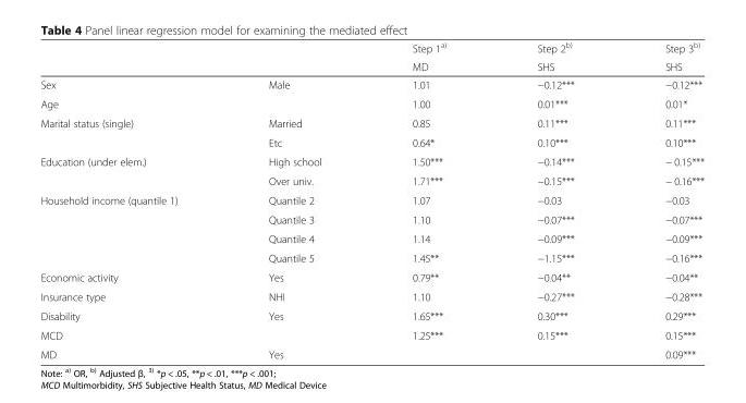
<table><thead><tr><td rowspan="2"></td><td rowspan="2"></td><td rowspan="2">Step 1<sup>a)</sup> MD</td><td rowspan="2">Step 2<sup>b)</sup> SHS</td><td rowspan="2">Step 3<sup>b)</sup> SHS</td></tr><tr></tr></thead><tbody><tr><td>Sex</td><td>Male</td><td>1.01</td><td>−0.12***</td><td>−0.12***</td></tr><tr><td>Age</td><td></td><td>1.00</td><td>0.01***</td><td>0.01*</td></tr><tr><td rowspan="2">Marital status (single)</td><td>Married</td><td>0.85</td><td>0.11***</td><td>0.11***</td></tr><tr><td>Etc</td><td>0.64*</td><td>0.10***</td><td>0.10***</td></tr><tr><td rowspan="2">Education (under elem.)</td><td>High school</td><td>1.50***</td><td>−0.14***</td><td>− 0.15***</td></tr><tr><td>Over univ.</td><td>1.71***</td><td>−0.15***</td><td>− 0.16***</td></tr><tr><td rowspan="4">Household income (quantile 1)</td><td>Quantile 2</td><td>1.07</td><td>−0.03</td><td>−0.03</td></tr><tr><td>Quantile 3</td><td>1.10</td><td>−0.07***</td><td>−0.07***</td></tr><tr><td>Quantile 4</td><td>1.14</td><td>−0.09***</td><td>−0.09***</td></tr><tr><td>Quantile 5</td><td>1.45**</td><td>−1.15***</td><td>−0.16***</td></tr><tr><td>Economic activity</td><td>Yes</td><td>0.79**</td><td>−0.04**</td><td>−0.04**</td></tr><tr><td>Insurance type</td><td>NHI</td><td>1.10</td><td>−0.27***</td><td>−0.28***</td></tr><tr><td>Disability</td><td>Yes</td><td>1.65***</td><td>0.30***</td><td>0.29***</td></tr><tr><td>MCD</td><td></td><td>1.25***</td><td>0.15***</td><td>0.15***</td></tr><tr><td>MD</td><td>Yes</td><td></td><td></td><td>0.09***</td></tr></tbody></table>